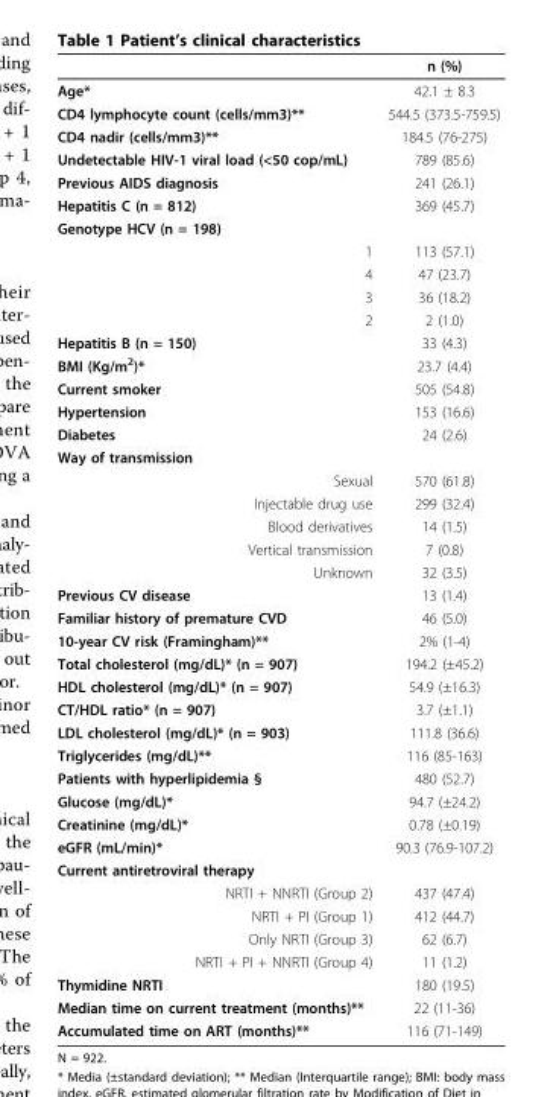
<table><thead><tr><td></td><td>n (%)</td></tr></thead><tbody><tr><td>Age*</td><td>42.1 ± 8.3</td></tr><tr><td>CD4 lymphocyte count (cells/mm3)**</td><td>544.5 (373.5-759.5)</td></tr><tr><td>CD4 nadir (cells/mm3)**</td><td>184.5 (76-275)</td></tr><tr><td>Undetectable HIV-1 viral load (&lt;50 cop/mL)</td><td>789 (85.6)</td></tr><tr><td>Previous AIDS diagnosis</td><td>241 (26.1)</td></tr><tr><td>Hepatitis C (n = 812)</td><td>369 (45.7)</td></tr><tr><td colspan="2">Genotype HCV (n = 198)</td></tr><tr><td>1</td><td>113 (57.1)</td></tr><tr><td>4</td><td>47 (23.7)</td></tr><tr><td>3</td><td>36 (18.2)</td></tr><tr><td>2</td><td>2 (1.0)</td></tr><tr><td>Hepatitis B (n = 150)</td><td>33 (4.3)</td></tr><tr><td>BMI (Kg/m<sup>2</sup>)*</td><td>23.7 (4.4)</td></tr><tr><td>Current smoker</td><td>505 (54.8)</td></tr><tr><td>Hypertension</td><td>153 (16.6)</td></tr><tr><td>Diabetes</td><td>24 (2.6)</td></tr><tr><td colspan="2">Way of transmission</td></tr><tr><td>Sexual</td><td>570 (61.8)</td></tr><tr><td>Injectable drug use</td><td>299 (32.4)</td></tr><tr><td>Blood derivatives</td><td>14 (1.5)</td></tr><tr><td>Vertical transmission</td><td>7 (0.8)</td></tr><tr><td>Unknown</td><td>32 (3.5)</td></tr><tr><td>Previous CV disease</td><td>13 (1.4)</td></tr><tr><td>Familiar history of premature CVD</td><td>46 (5.0)</td></tr><tr><td>10-year CV risk (Framingham)**</td><td>2% (1-4)</td></tr><tr><td>Total cholesterol (mg/dL)* (n = 907)</td><td>194.2 (±45.2)</td></tr><tr><td>HDL cholesterol (mg/dL)* (n = 907)</td><td>54.9 (±16.3)</td></tr><tr><td>CT/HDL ratio* (n = 907)</td><td>3.7 (±1.1)</td></tr><tr><td>LDL cholesterol (mg/dL)* (n = 903)</td><td>111.8 (36.6)</td></tr><tr><td>Triglycerides (mg/dL)**</td><td>116 (85-163)</td></tr><tr><td>Patients with hyperlipidemia §</td><td>480 (52.7)</td></tr><tr><td>Glucose (mg/dL)*</td><td>94.7 (±24.2)</td></tr><tr><td>Creatinine (mg/dL)*</td><td>0.78 (±0.19)</td></tr><tr><td>eGFR (mL/min)*</td><td>90.3 (76.9-107.2)</td></tr><tr><td colspan="2">Current antiretroviral therapy</td></tr><tr><td>NRTI + NNRTI (Group 2)</td><td>437 (47.4)</td></tr><tr><td>NRTI + PI (Group 1)</td><td>412 (44.7)</td></tr><tr><td>Only NRTI (Group 3)</td><td>62 (6.7)</td></tr><tr><td>NRTI + PI + NNRTI (Group 4)</td><td>11 (1.2)</td></tr><tr><td>Thymidine NRTI</td><td>180 (19.5)</td></tr><tr><td>Median time on current treatment (months)**</td><td>22 (11-36)</td></tr><tr><td>Accumulated time on ART (months)**</td><td>116 (71-149)</td></tr></tbody></table>